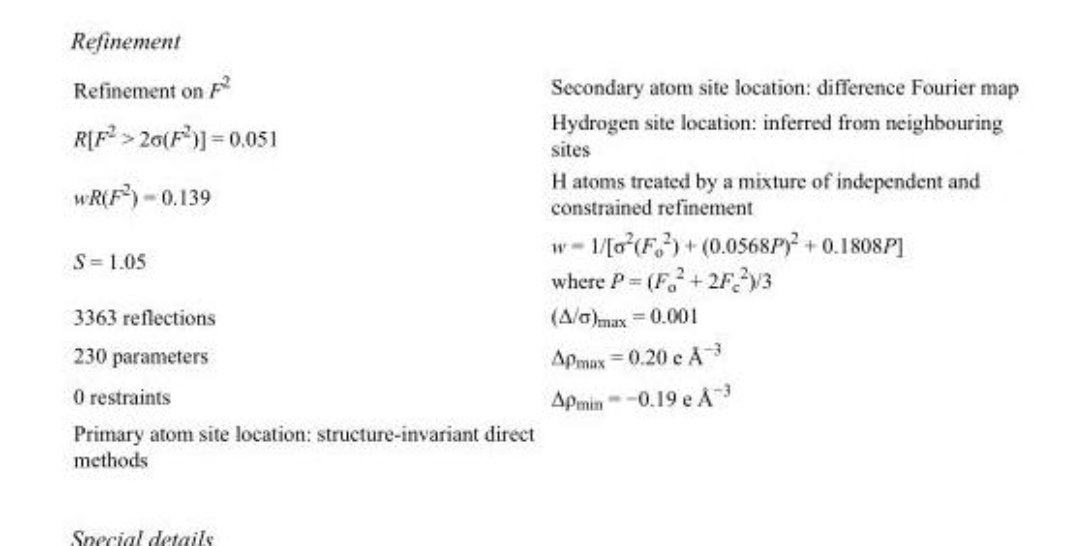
<table><tbody><tr><td>Refinement on F<sup>2</sup></td><td>Secondary atom site location: difference Fourier map</td></tr><tr><td>R[F<sup>2</sup> &gt; 2σ(F<sup>2</sup>)] = 0.051</td><td>Hydrogen site location: inferred from neighbouring sites</td></tr><tr><td>wR(F<sup>2</sup>) = 0.139</td><td>H atoms treated by a mixture of independent and constrained refinement</td></tr><tr><td>S = 1.05</td><td>w = 1/[σ<sup>2</sup>(F<sub>o</sub> <sup>2</sup>) + (0.0568P)<sup>2</sup> + 0.1808P] where P = (F<sub>o</sub> <sup>2</sup> + 2F<sub>c</sub> <sup>2</sup>)/3</td></tr><tr><td>3363 reflections</td><td>(Δ/σ)<sub>max</sub> = 0.001</td></tr><tr><td>230 parameters</td><td>Δρ<sub>max</sub> = 0.20 e Å<sup>−3</sup></td></tr><tr><td>0 restraints</td><td>Δρ<sub>min</sub> = −0.19 e Å<sup>−3</sup></td></tr><tr><td>Primary atom site location: structure-invariant direct methods</td><td></td></tr></tbody></table>